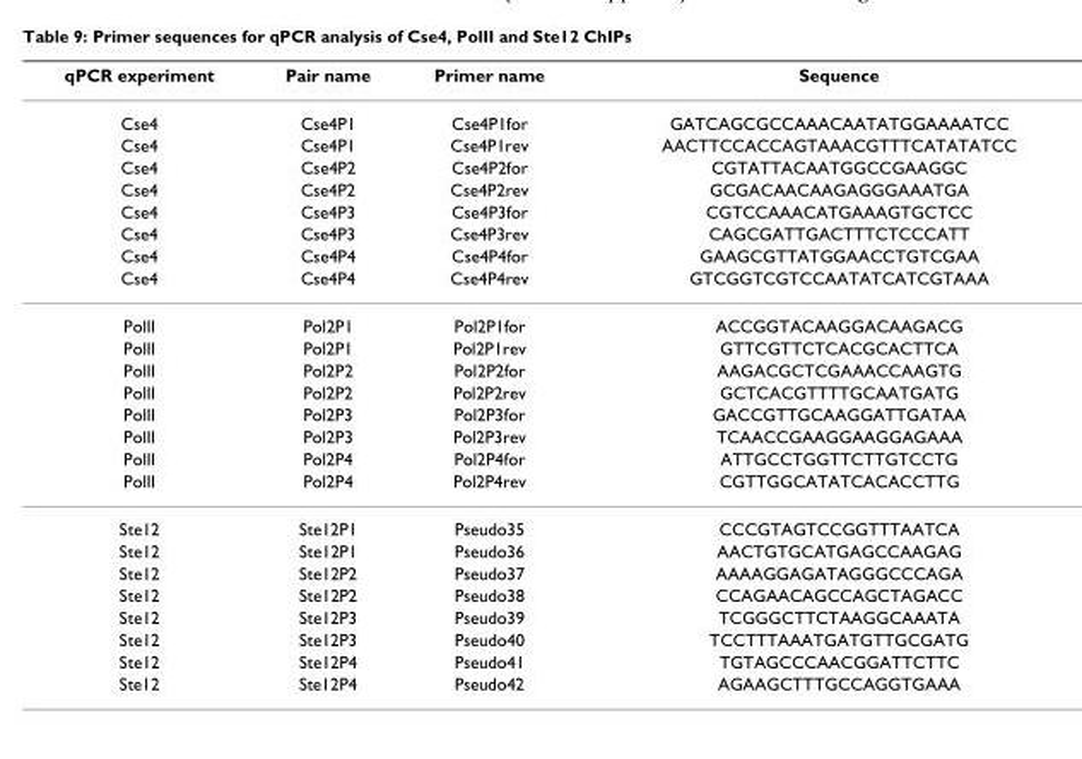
<table><thead><tr><td>qPCR experiment</td><td>Pair name</td><td>Primer name</td><td>Sequence</td></tr></thead><tbody><tr><td>Cse4</td><td>Cse4P1</td><td>Cse4P1for</td><td>GATCAGCGCCAAACAATATGGAAAATCC</td></tr><tr><td>Cse4</td><td>Cse4P1</td><td>Cse4P1rev</td><td>AACTTCCACCAGTAAACGTTTCATATATCC</td></tr><tr><td>Cse4</td><td>Cse4P2</td><td>Cse4P2for</td><td>CGTATTACAATGGCCGAAGGC</td></tr><tr><td>Cse4</td><td>Cse4P2</td><td>Cse4P2rev</td><td>GCGACAACAAGAGGGAAATGA</td></tr><tr><td>Cse4</td><td>Cse4P3</td><td>Cse4P3for</td><td>CGTCCAAACATGAAAGTGCTCC</td></tr><tr><td>Cse4</td><td>Cse4P3</td><td>Cse4P3rev</td><td>CAGCGATTGACTTTCTCCCATT</td></tr><tr><td>Cse4</td><td>Cse4P4</td><td>Cse4P4for</td><td>GAAGCGTTATGGAACCTGTCGAA</td></tr><tr><td>Cse4</td><td>Cse4P4</td><td>Cse4P4rev</td><td>GTCGGTCGTCCAATATCATCGTAAA</td></tr><tr><td>PolII</td><td>Pol2P1</td><td>Pol2P1for</td><td>ACCGGTACAAGGACAAGACG</td></tr><tr><td>PolII</td><td>Pol2P1</td><td>Pol2P1rev</td><td>GTTCGTTCTCACGCACTTCA</td></tr><tr><td>PolII</td><td>Pol2P2</td><td>Pol2P2for</td><td>AAGACGCTCGAAACCAAGTG</td></tr><tr><td>PolII</td><td>Pol2P2</td><td>Pol2P2rev</td><td>GCTCACGTTTTGCAATGATG</td></tr><tr><td>PolII</td><td>Pol2P3</td><td>Pol2P3for</td><td>GACCGTTGCAAGGATTGATAA</td></tr><tr><td>PolII</td><td>Pol2P3</td><td>Pol2P3rev</td><td>TCAACCGAAGGAAGGAGAAA</td></tr><tr><td>PolII</td><td>Pol2P4</td><td>Pol2P4for</td><td>ATTGCCTGGTTCTTGTCCTG</td></tr><tr><td>PolII</td><td>Pol2P4</td><td>Pol2P4rev</td><td>CGTTGGCATATCACACCTTG</td></tr><tr><td>Ste12</td><td>Ste12P1</td><td>Pseudo35</td><td>CCCGTAGTCCGGTTTAATCA</td></tr><tr><td>Ste12</td><td>Ste12P1</td><td>Pseudo36</td><td>AACTGTGCATGAGCCAAGAG</td></tr><tr><td>Ste12</td><td>Ste12P2</td><td>Pseudo37</td><td>AAAAGGAGATAGGGCCCAGA</td></tr><tr><td>Ste12</td><td>Ste12P2</td><td>Pseudo38</td><td>CCAGAACAGCCAGCTAGACC</td></tr><tr><td>Ste12</td><td>Ste12P3</td><td>Pseudo39</td><td>TCGGGCTTCTAAGGCAAATA</td></tr><tr><td>Ste12</td><td>Ste12P3</td><td>Pseudo40</td><td>TCCTTTAAATGATGTTGCGATG</td></tr><tr><td>Ste12</td><td>Ste12P4</td><td>Pseudo41</td><td>TGTAGCCCAACGGATTCTTC</td></tr><tr><td>Ste12</td><td>Ste12P4</td><td>Pseudo42</td><td>AGAAGCTTTGCCAGGTGAAA</td></tr></tbody></table>